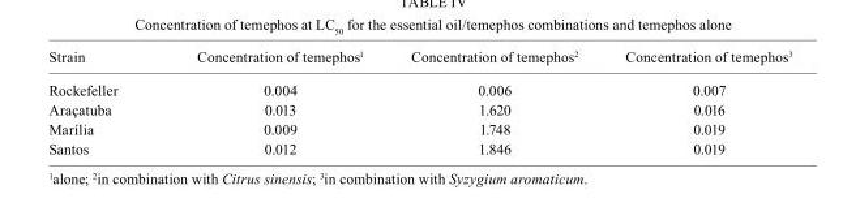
<table><thead><tr><td>Strain</td><td>Concentration of temephos<sup>1</sup></td><td>Concentration of temephos<sup>2</sup></td><td>Concentration of temephos<sup>3</sup></td></tr></thead><tbody><tr><td>Rockefeller</td><td>0.004</td><td>0.006</td><td>0.007</td></tr><tr><td>Araçatuba</td><td>0.013</td><td>1.620</td><td>0.016</td></tr><tr><td>Marília</td><td>0.009</td><td>1.748</td><td>0.019</td></tr><tr><td>Santos</td><td>0.012</td><td>1.846</td><td>0.019</td></tr></tbody></table>